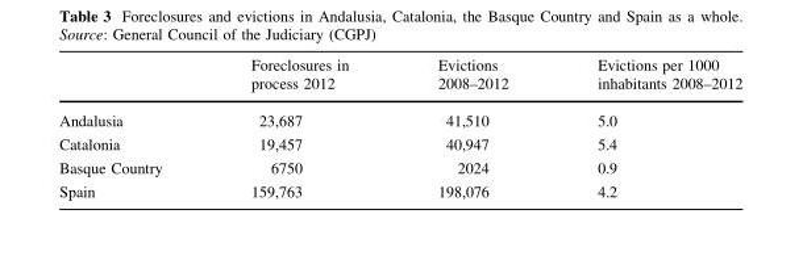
<table><thead><tr><td></td><td>Foreclosures in process 2012</td><td>Evictions 2008–2012</td><td>Evictions per 1000 inhabitants 2008–2012</td></tr></thead><tbody><tr><td>Andalusia</td><td>23,687</td><td>41,510</td><td>5.0</td></tr><tr><td>Catalonia</td><td>19,457</td><td>40,947</td><td>5.4</td></tr><tr><td>Basque Country</td><td>6750</td><td>2024</td><td>0.9</td></tr><tr><td>Spain</td><td>159,763</td><td>198,076</td><td>4.2</td></tr></tbody></table>